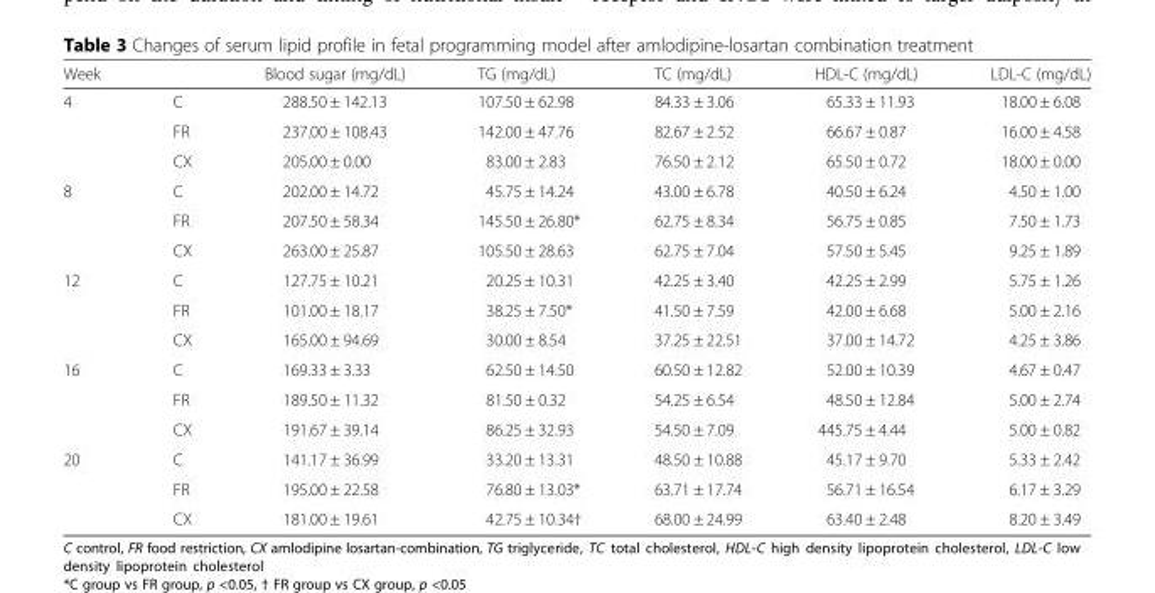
<table><thead><tr><td>Week</td><td></td><td>Blood sugar (mg/dL)</td><td>TG (mg/dL)</td><td>TC (mg/dL)</td><td>HDL-C (mg/dL)</td><td>LDL-C (mg/dL)</td></tr></thead><tbody><tr><td rowspan="3">4</td><td>C</td><td>288.50 ± 142.13</td><td>107.50 ± 62.98</td><td>84.33 ± 3.06</td><td>65.33 ± 11.93</td><td>18.00 ± 6.08</td></tr><tr><td>FR</td><td>237.00 ± 108.43</td><td>142.00 ± 47.76</td><td>82.67 ± 2.52</td><td>66.67 ± 0.87</td><td>16.00 ± 4.58</td></tr><tr><td>CX</td><td>205.00 ± 0.00</td><td>83.00 ± 2.83</td><td>76.50 ± 2.12</td><td>65.50 ± 0.72</td><td>18.00 ± 0.00</td></tr><tr><td rowspan="3">8</td><td>C</td><td>202.00 ± 14.72</td><td>45.75 ± 14.24</td><td>43.00 ± 6.78</td><td>40.50 ± 6.24</td><td>4.50 ± 1.00</td></tr><tr><td>FR</td><td>207.50 ± 58.34</td><td>145.50 ± 26.80*</td><td>62.75 ± 8.34</td><td>56.75 ± 0.85</td><td>7.50 ± 1.73</td></tr><tr><td>CX</td><td>263.00 ± 25.87</td><td>105.50 ± 28.63</td><td>62.75 ± 7.04</td><td>57.50 ± 5.45</td><td>9.25 ± 1.89</td></tr><tr><td rowspan="3">12</td><td>C</td><td>127.75 ± 10.21</td><td>20.25 ± 10.31</td><td>42.25 ± 3.40</td><td>42.25 ± 2.99</td><td>5.75 ± 1.26</td></tr><tr><td>FR</td><td>101.00 ± 18.17</td><td>38.25 ± 7.50*</td><td>41.50 ± 7.59</td><td>42.00 ± 6.68</td><td>5.00 ± 2.16</td></tr><tr><td>CX</td><td>165.00 ± 94.69</td><td>30.00 ± 8.54</td><td>37.25 ± 22.51</td><td>37.00 ± 14.72</td><td>4.25 ± 3.86</td></tr><tr><td rowspan="3">16</td><td>C</td><td>169.33 ± 3.33</td><td>62.50 ± 14.50</td><td>60.50 ± 12.82</td><td>52.00 ± 10.39</td><td>4.67 ± 0.47</td></tr><tr><td>FR</td><td>189.50 ± 11.32</td><td>81.50 ± 0.32</td><td>54.25 ± 6.54</td><td>48.50 ± 12.84</td><td>5.00 ± 2.74</td></tr><tr><td>CX</td><td>191.67 ± 39.14</td><td>86.25 ± 32.93</td><td>54.50 ± 7.09</td><td>445.75 ± 4.44</td><td>5.00 ± 0.82</td></tr><tr><td rowspan="3">20</td><td>C</td><td>141.17 ± 36.99</td><td>33.20 ± 13.31</td><td>48.50 ± 10.88</td><td>45.17 ± 9.70</td><td>5.33 ± 2.42</td></tr><tr><td>FR</td><td>195.00 ± 22.58</td><td>76.80 ± 13.03*</td><td>63.71 ± 17.74</td><td>56.71 ± 16.54</td><td>6.17 ± 3.29</td></tr><tr><td>CX</td><td>181.00 ± 19.61</td><td>42.75 ± 10.34†</td><td>68.00 ± 24.99</td><td>63.40 ± 2.48</td><td>8.20 ± 3.49</td></tr></tbody></table>